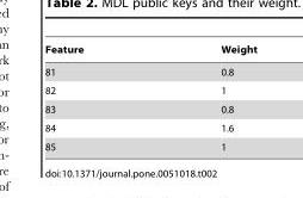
<table><thead><tr><td>Feature</td><td>Weight</td></tr></thead><tbody><tr><td>81</td><td>0.8</td></tr><tr><td>82</td><td>1</td></tr><tr><td>83</td><td>0.8</td></tr><tr><td>84</td><td>1.6</td></tr><tr><td>85</td><td>1</td></tr></tbody></table>